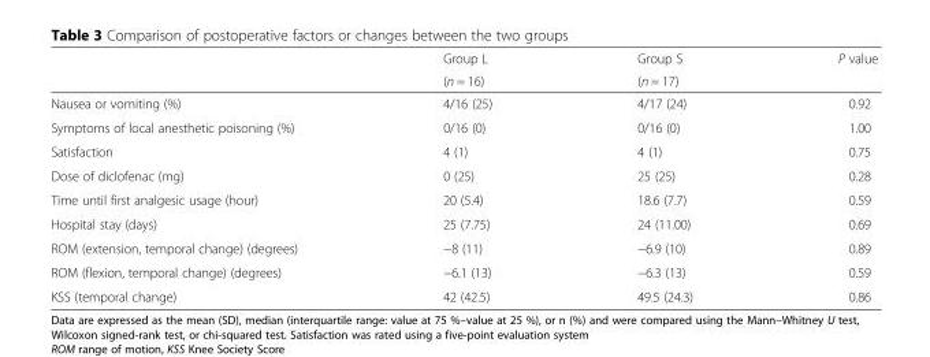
<table><thead><tr><td rowspan="2"></td><td rowspan="2">Group L (n = 16)</td><td rowspan="2">Group S (n = 17)</td><td rowspan="2">P value</td></tr><tr></tr></thead><tbody><tr><td>Nausea or vomiting (%)</td><td>4/16 (25)</td><td>4/17 (24)</td><td>0.92</td></tr><tr><td>Symptoms of local anesthetic poisoning (%)</td><td>0/16 (0)</td><td>0/16 (0)</td><td>1.00</td></tr><tr><td>Satisfaction</td><td>4 (1)</td><td>4 (1)</td><td>0.75</td></tr><tr><td>Dose of diclofenac (mg)</td><td>0 (25)</td><td>25 (25)</td><td>0.28</td></tr><tr><td>Time until first analgesic usage (hour)</td><td>20 (5.4)</td><td>18.6 (7.7)</td><td>0.59</td></tr><tr><td>Hospital stay (days)</td><td>25 (7.75)</td><td>24 (11.00)</td><td>0.69</td></tr><tr><td>ROM (extension, temporal change) (degrees)</td><td>−8 (11)</td><td>−6.9 (10)</td><td>0.89</td></tr><tr><td>ROM (flexion, temporal change) (degrees)</td><td>−6.1 (13)</td><td>−6.3 (13)</td><td>0.59</td></tr><tr><td>KSS (temporal change)</td><td>42 (42.5)</td><td>49.5 (24.3)</td><td>0.86</td></tr></tbody></table>